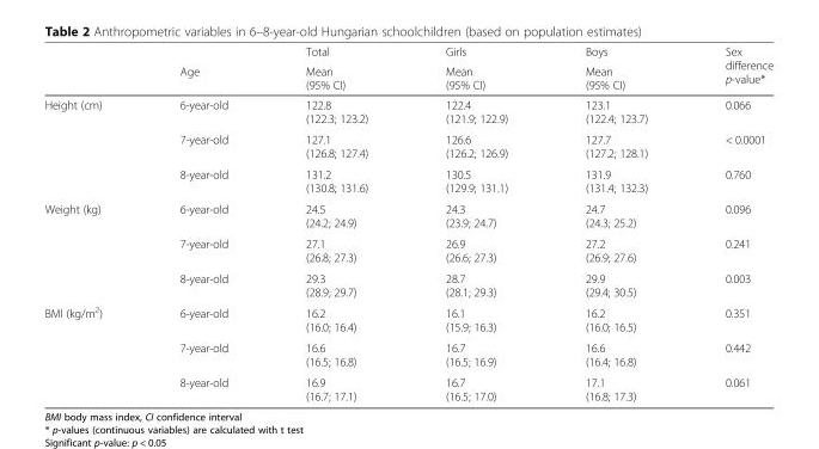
<table><thead><tr><td rowspan="2"></td><td rowspan="2">Age</td><td rowspan="2">Total Mean (95% CI)</td><td rowspan="2">Girls Mean (95% CI)</td><td rowspan="2">Boys Mean (95% CI)</td><td rowspan="2">Sex difference p-value*</td></tr><tr></tr></thead><tbody><tr><td rowspan="3">Height (cm)</td><td>6-year-old</td><td>122.8 (122.3; 123.2)</td><td>122.4 (121.9; 122.9)</td><td>123.1 (122.4; 123.7)</td><td>0.066</td></tr><tr><td>7-year-old</td><td>127.1 (126.8; 127.4)</td><td>126.6 (126.2; 126.9)</td><td>127.7 (127.2; 128.1)</td><td>&lt; 0.0001</td></tr><tr><td>8-year-old</td><td>131.2 (130.8; 131.6)</td><td>130.5 (129.9; 131.1)</td><td>131.9 (131.4; 132.3)</td><td>0.760</td></tr><tr><td rowspan="3">Weight (kg)</td><td>6-year-old</td><td>24.5 (24.2; 24.9)</td><td>24.3 (23.9; 24.7)</td><td>24.7 (24.3; 25.2)</td><td>0.096</td></tr><tr><td>7-year-old</td><td>27.1 (26.8; 27.3)</td><td>26.9 (26.6; 27.3)</td><td>27.2 (26.9; 27.6)</td><td>0.241</td></tr><tr><td>8-year-old</td><td>29.3 (28.9; 29.7)</td><td>28.7 (28.1; 29.3)</td><td>29.9 (29.4; 30.5)</td><td>0.003</td></tr><tr><td rowspan="3">BMI (kg/m<sup>2</sup>)</td><td>6-year-old</td><td>16.2 (16.0; 16.4)</td><td>16.1 (15.9; 16.3)</td><td>16.2 (16.0; 16.5)</td><td>0.351</td></tr><tr><td>7-year-old</td><td>16.6 (16.5; 16.8)</td><td>16.7 (16.5; 16.9)</td><td>16.6 (16.4; 16.8)</td><td>0.442</td></tr><tr><td>8-year-old</td><td>16.9 (16.7; 17.1)</td><td>16.7 (16.5; 17.0)</td><td>17.1 (16.8; 17.3)</td><td>0.061</td></tr></tbody></table>